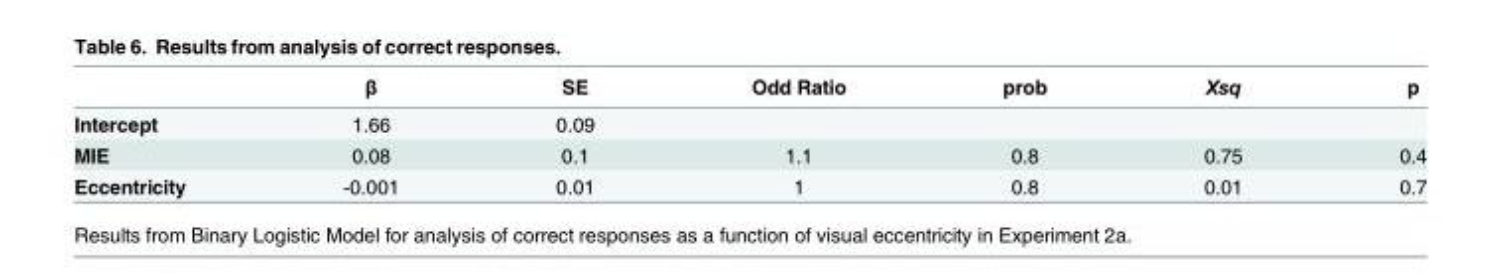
<table><thead><tr><td></td><td>β</td><td>SE</td><td>Odd Ratio</td><td>prob</td><td>Χsq</td><td>p</td></tr></thead><tbody><tr><td>Intercept</td><td>1.66</td><td>0.09</td><td></td><td></td><td></td><td></td></tr><tr><td>MIE</td><td>0.08</td><td>0.1</td><td>1.1</td><td>0.8</td><td>0.75</td><td>0.4</td></tr><tr><td>Eccentricity</td><td>-0.001</td><td>0.01</td><td>1</td><td>0.8</td><td>0.01</td><td>0.7</td></tr></tbody></table>